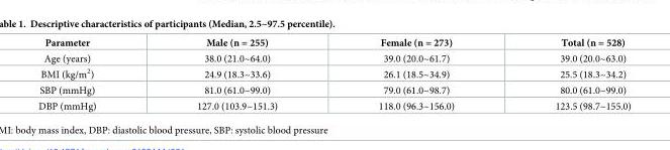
<table><thead><tr><td>Parameter</td><td>Male (n = 255)</td><td>Female (n = 273)</td><td>Total (n = 528)</td></tr></thead><tbody><tr><td>Age (years)</td><td>38.0 (21.0~64.0)</td><td>39.0 (20.0~61.7)</td><td>39.0 (20.0~63.0)</td></tr><tr><td>BMI (kg/m<sup>2</sup>)</td><td>24.9 (18.3~33.6)</td><td>26.1 (18.5~34.9)</td><td>25.5 (18.3~34.2)</td></tr><tr><td>SBP (mmHg)</td><td>81.0 (61.0~99.0)</td><td>79.0 (61.0~98.7)</td><td>80.0 (61.0~99.0)</td></tr><tr><td>DBP (mmHg)</td><td>127.0 (103.9~151.3)</td><td>118.0 (96.3~156.0)</td><td>123.5 (98.7~155.0)</td></tr></tbody></table>